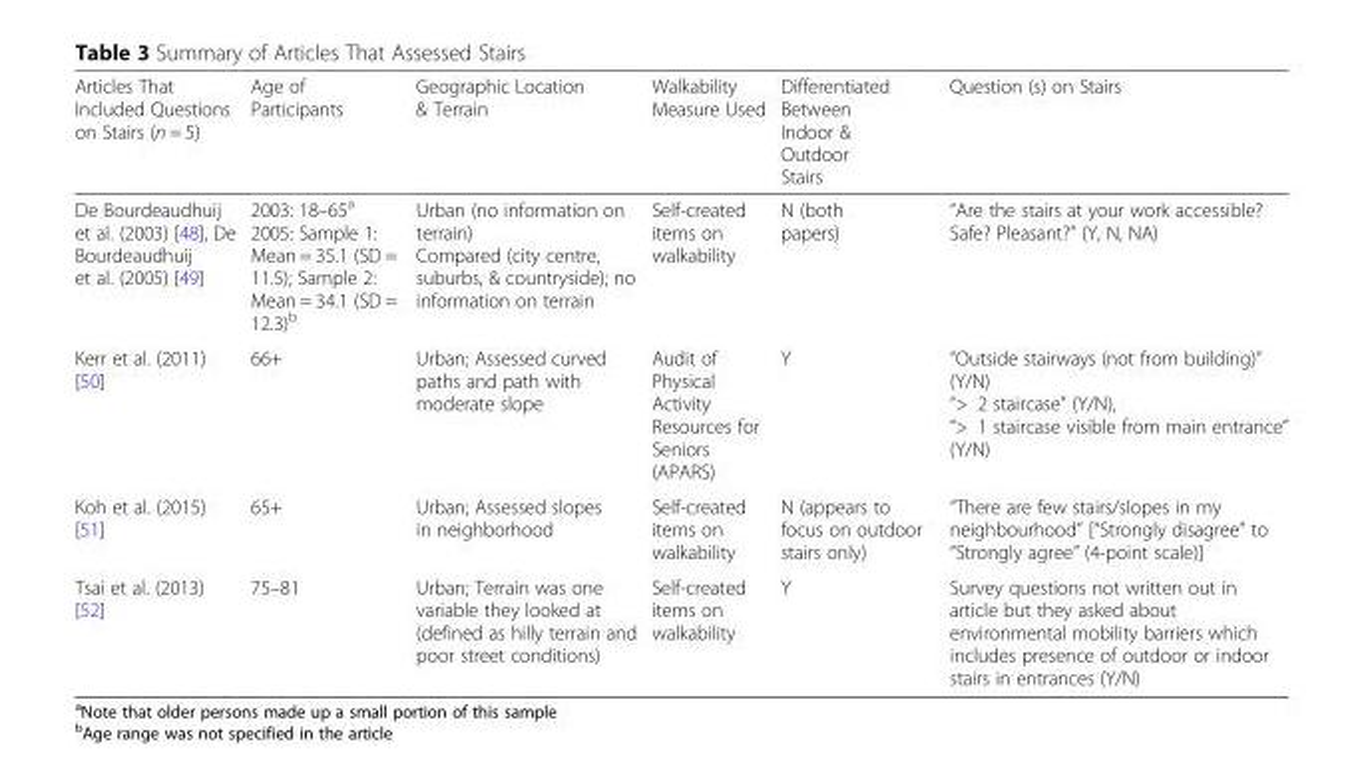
<table><thead><tr><td>Articles That Included Questions on Stairs (n = 5)</td><td>Age of Participants</td><td>Geographic Location &amp; Terrain</td><td>Walkability Measure Used</td><td>Differentiated Between Indoor &amp; Outdoor Stairs</td><td>Question (s) on Stairs</td></tr></thead><tbody><tr><td>De Bourdeaudhuij et al. (2003) [48], De Bourdeaudhuij et al. (2005) [49]</td><td>2003: 18–65<sup>a</sup> 2005: Sample 1: Mean = 35.1 (SD = 11.5); Sample 2: Mean = 34.1 (SD = 12.3)<sup>b</sup></td><td>Urban (no information on terrain) Compared (city centre, suburbs, &amp; countryside); no information on terrain</td><td>Self-created items on walkability</td><td>N (both papers)</td><td>“Are the stairs at your work accessible? Safe? Pleasant?” (Y, N, NA)</td></tr><tr><td>Kerr et al. (2011) [50]</td><td>66+</td><td>Urban; Assessed curved paths and path with moderate slope</td><td>Audit of Physical Activity Resources for Seniors (APARS)</td><td>Y</td><td>“Outside stairways (not from building)” (Y/N) “&gt; 2 staircase” (Y/N), “&gt; 1 staircase visible from main entrance” (Y/N)</td></tr><tr><td>Koh et al. (2015) [51]</td><td>65+</td><td>Urban; Assessed slopes in neighborhood</td><td>Self-created items on walkability</td><td>N (appears to focus on outdoor stairs only)</td><td>“There are few stairs/slopes in my neighbourhood” [“Strongly disagree” to “Strongly agree” (4-point scale)]</td></tr><tr><td>Tsai et al. (2013) [52]</td><td>75–81</td><td>Urban; Terrain was one variable they looked at (defined as hilly terrain and poor street conditions)</td><td>Self-created items on walkability</td><td>Y</td><td>Survey questions not written out in article but they asked about environmental mobility barriers which includes presence of outdoor or indoor stairs in entrances (Y/N)</td></tr></tbody></table>